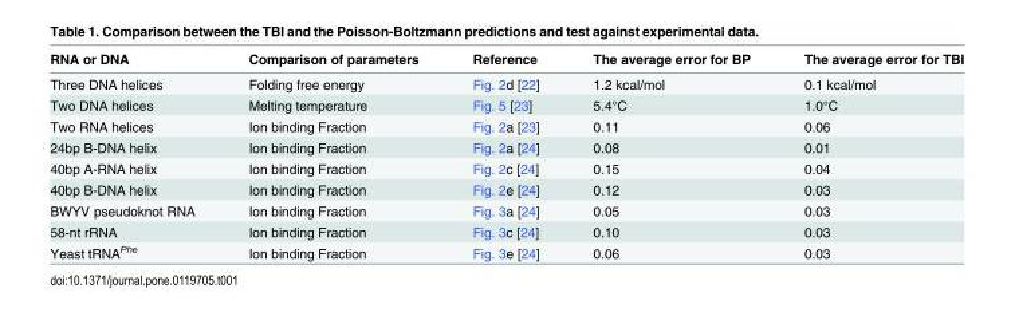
<table><thead><tr><td>RNA or DNA</td><td>Comparison of parameters</td><td>Reference</td><td>The average error for BP</td><td>The average error for TBI</td></tr></thead><tbody><tr><td>Three DNA helices</td><td>Folding free energy</td><td>Fig. 2d [22]</td><td>1.2 kcal/mol</td><td>0.1 kcal/mol</td></tr><tr><td>Two DNA helices</td><td>Melting temperature</td><td>Fig. 5 [23]</td><td>5.4°C</td><td>1.0°C</td></tr><tr><td>Two RNA helices</td><td>Ion binding Fraction</td><td>Fig. 2a [23]</td><td>0.11</td><td>0.06</td></tr><tr><td>24bp B-DNA helix</td><td>Ion binding Fraction</td><td>Fig. 2a [24]</td><td>0.08</td><td>0.01</td></tr><tr><td>40bp A-RNA helix</td><td>Ion binding Fraction</td><td>Fig. 2c [24]</td><td>0.15</td><td>0.04</td></tr><tr><td>40bp B-DNA helix</td><td>Ion binding Fraction</td><td>Fig. 2e [24]</td><td>0.12</td><td>0.03</td></tr><tr><td>BWYV pseudoknot RNA</td><td>Ion binding Fraction</td><td>Fig. 3a [24]</td><td>0.05</td><td>0.03</td></tr><tr><td>58-nt rRNA</td><td>Ion binding Fraction</td><td>Fig. 3c [24]</td><td>0.10</td><td>0.03</td></tr><tr><td>Yeast tRNA<sup>Phe</sup></td><td>Ion binding Fraction</td><td>Fig. 3e [24]</td><td>0.06</td><td>0.03</td></tr></tbody></table>